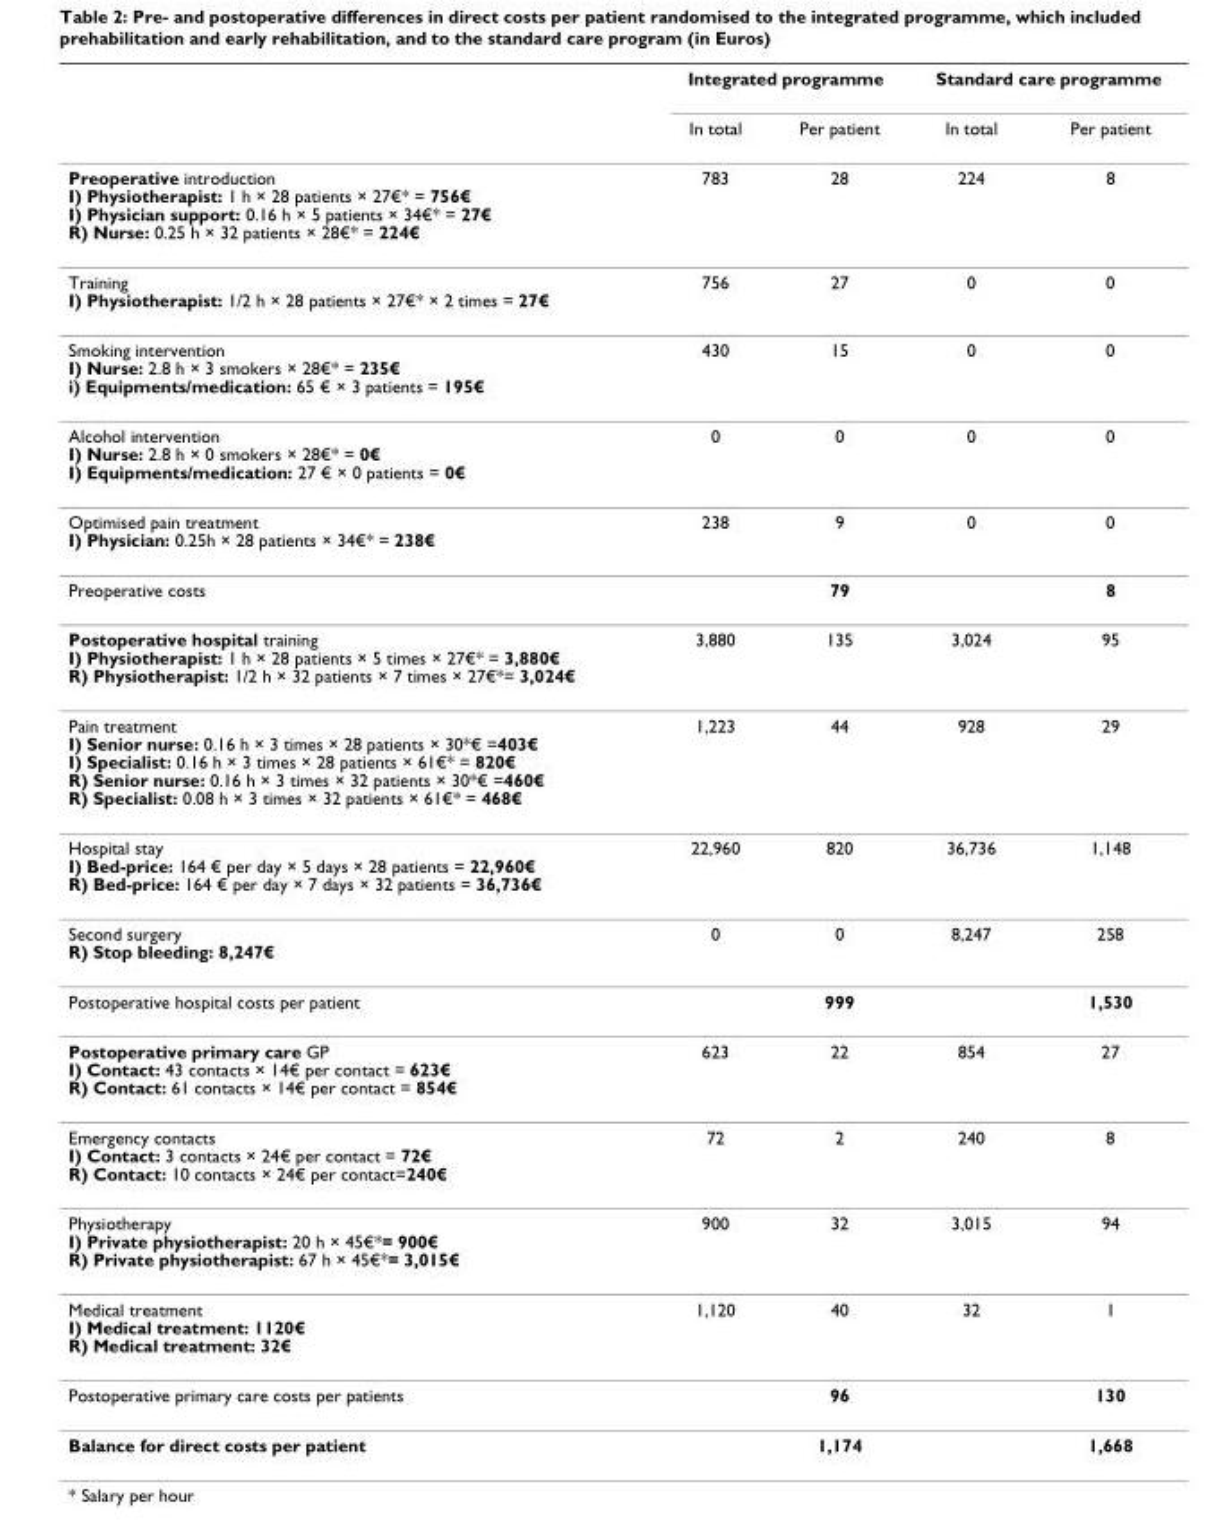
<table><thead><tr><td rowspan="2"></td><td colspan="2">Integrated programme</td><td colspan="2">Standard care programme</td></tr><tr><td>In total</td><td>Per patient</td><td>In total</td><td>Per patient</td></tr></thead><tbody><tr><td>Preoperative introduction I) Physiotherapist: 1 h × 28 patients × 27€* = 756€ I) Physician support: 0.16 h × 5 patients × 34€* = 27€ R) Nurse: 0.25 h × 32 patients × 28€* = 224€</td><td>783</td><td>28</td><td>224</td><td>8</td></tr><tr><td>Training I) Physiotherapist: 1/2 h × 28 patients × 27€* × 2 times = 27€</td><td>756</td><td>27</td><td>0</td><td>0</td></tr><tr><td>Smoking intervention I) Nurse: 2.8 h × 3 smokers × 28€* = 235€ i) Equipments/medication: 65 € × 3 patients = 195€</td><td>430</td><td>15</td><td>0</td><td>0</td></tr><tr><td>Alcohol intervention I) Nurse: 2.8 h × 0 smokers × 28€* = 0€ I) Equipments/medication: 27 € × 0 patients = 0€</td><td>0</td><td>0</td><td>0</td><td>0</td></tr><tr><td>Optimised pain treatment I) Physician: 0.25h × 28 patients × 34€* = 238€</td><td>238</td><td>9</td><td>0</td><td>0</td></tr><tr><td>Preoperative costs</td><td></td><td>79</td><td></td><td>8</td></tr><tr><td>Postoperative hospital training I) Physiotherapist: 1 h × 28 patients × 5 times × 27€* = 3,880€ R) Physiotherapist: 1/2 h × 32 patients × 7 times × 27€*= 3,024€</td><td>3,880</td><td>135</td><td>3,024</td><td>95</td></tr><tr><td>Pain treatment I) Senior nurse: 0.16 h × 3 times × 28 patients × 30*€ =403€ I) Specialist: 0.16 h × 3 times × 28 patients × 61€* = 820€ R) Senior nurse: 0.16 h × 3 times × 32 patients × 30*€ =460€ R) Specialist: 0.08 h × 3 times × 32 patients × 61€* = 468€</td><td>1,223</td><td>44</td><td>928</td><td>29</td></tr><tr><td>Hospital stay I) Bed-price: 164 € per day × 5 days × 28 patients = 22,960€ R) Bed-price: 164 € per day × 7 days × 32 patients = 36,736€</td><td>22,960</td><td>820</td><td>36,736</td><td>1,148</td></tr><tr><td>Second surgery R) Stop bleeding: 8,247€</td><td>0</td><td>0</td><td>8,247</td><td>258</td></tr><tr><td>Postoperative hospital costs per patient</td><td></td><td>999</td><td></td><td>1,530</td></tr><tr><td>Postoperative primary care GP I) Contact: 43 contacts × 14€ per contact = 623€ R) Contact: 61 contacts × 14€ per contact = 854€</td><td>623</td><td>22</td><td>854</td><td>27</td></tr><tr><td>Emergency contacts I) Contact: 3 contacts × 24€ per contact = 72€ R) Contact: 10 contacts × 24€ per contact=240€</td><td>72</td><td>2</td><td>240</td><td>8</td></tr><tr><td>Physiotherapy I) Private physiotherapist: 20 h × 45€*= 900€ R) Private physiotherapist: 67 h × 45€*= 3,015€</td><td>900</td><td>32</td><td>3,015</td><td>94</td></tr><tr><td>Medical treatment I) Medical treatment: 1120€ R) Medical treatment: 32€</td><td>1,120</td><td>40</td><td>32</td><td>1</td></tr><tr><td>Postoperative primary care costs per patients</td><td></td><td>96</td><td></td><td>130</td></tr><tr><td>Balance for direct costs per patient</td><td></td><td>1,174</td><td></td><td>1,668</td></tr></tbody></table>